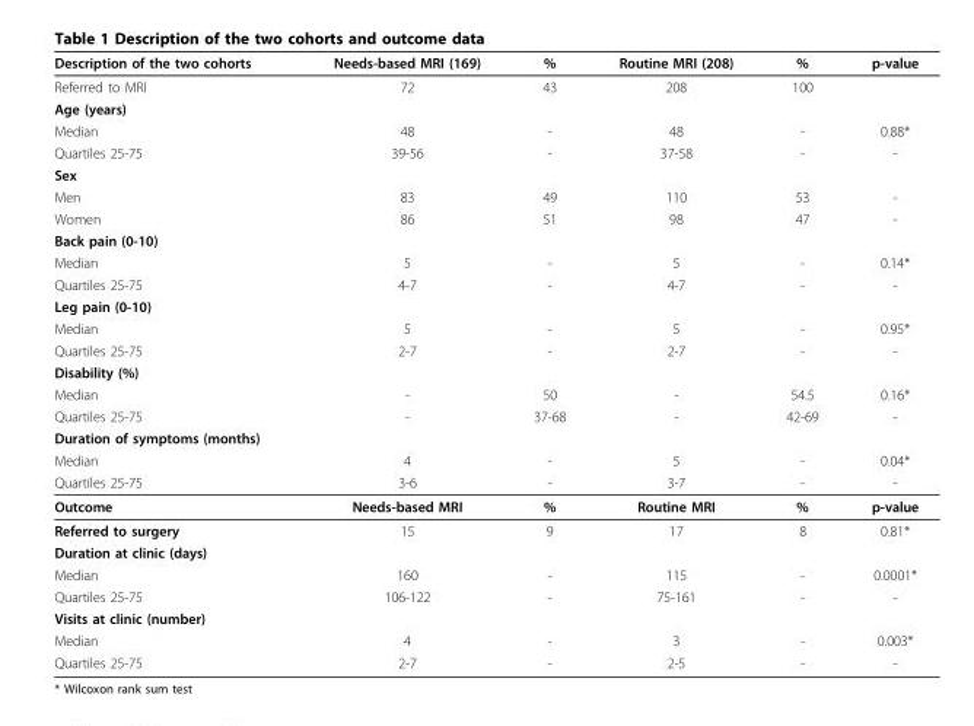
<table><thead><tr><td>Description of the two cohorts</td><td>Needs-based MRI (169)</td><td>%</td><td>Routine MRI (208)</td><td>%</td><td>p-value</td></tr></thead><tbody><tr><td>Referred to MRI</td><td>72</td><td>43</td><td>208</td><td>100</td><td></td></tr><tr><td colspan="6">Age (years)</td></tr><tr><td>Median</td><td>48</td><td>-</td><td>48</td><td>-</td><td>0.88*</td></tr><tr><td>Quartiles 25-75</td><td>39-56</td><td>-</td><td>37-58</td><td>-</td><td>-</td></tr><tr><td colspan="6">Sex</td></tr><tr><td>Men</td><td>83</td><td>49</td><td>110</td><td>53</td><td>-</td></tr><tr><td>Women</td><td>86</td><td>51</td><td>98</td><td>47</td><td>-</td></tr><tr><td colspan="6">Back pain (0-10)</td></tr><tr><td>Median</td><td>5</td><td>-</td><td>5</td><td>-</td><td>0.14*</td></tr><tr><td>Quartiles 25-75</td><td>4-7</td><td>-</td><td>4-7</td><td>-</td><td>-</td></tr><tr><td colspan="6">Leg pain (0-10)</td></tr><tr><td>Median</td><td>5</td><td>-</td><td>5</td><td>-</td><td>0.95*</td></tr><tr><td>Quartiles 25-75</td><td>2-7</td><td>-</td><td>2-7</td><td>-</td><td>-</td></tr><tr><td colspan="6">Disability (%)</td></tr><tr><td>Median</td><td>-</td><td>50</td><td>-</td><td>54.5</td><td>0.16*</td></tr><tr><td>Quartiles 25-75</td><td>-</td><td>37-68</td><td>-</td><td>42-69</td><td>-</td></tr><tr><td colspan="6">Duration of symptoms (months)</td></tr><tr><td>Median</td><td>4</td><td>-</td><td>5</td><td>-</td><td>0.04*</td></tr><tr><td>Quartiles 25-75</td><td>3-6</td><td>-</td><td>3-7</td><td>-</td><td>-</td></tr><tr><td>Outcome</td><td>Needs-based MRI</td><td>%</td><td>Routine MRI</td><td>%</td><td>p-value</td></tr><tr><td>Referred to surgery</td><td>15</td><td>9</td><td>17</td><td>8</td><td>0.81*</td></tr><tr><td colspan="6">Duration at clinic (days)</td></tr><tr><td>Median</td><td>160</td><td>-</td><td>115</td><td>-</td><td>0.0001*</td></tr><tr><td>Quartiles 25-75</td><td>106-122</td><td>-</td><td>75-161</td><td>-</td><td>-</td></tr><tr><td colspan="6">Visits at clinic (number)</td></tr><tr><td>Median</td><td>4</td><td>-</td><td>3</td><td>-</td><td>0.003*</td></tr><tr><td>Quartiles 25-75</td><td>2-7</td><td>-</td><td>2-5</td><td>-</td><td>-</td></tr></tbody></table>